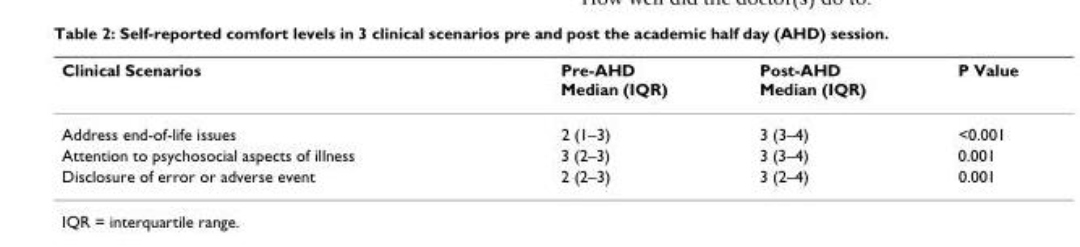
<table><thead><tr><td>Clinical Scenarios</td><td>Pre-AHD Median (IQR)</td><td>Post-AHD Median (IQR)</td><td>P Value</td></tr></thead><tbody><tr><td>Address end-of-life issues</td><td>2 (1–3)</td><td>3 (3–4)</td><td>&lt;0.001</td></tr><tr><td>Attention to psychosocial aspects of illness</td><td>3 (2–3)</td><td>3 (3–4)</td><td>0.001</td></tr><tr><td>Disclosure of error or adverse event</td><td>2 (2–3)</td><td>3 (2–4)</td><td>0.001</td></tr></tbody></table>